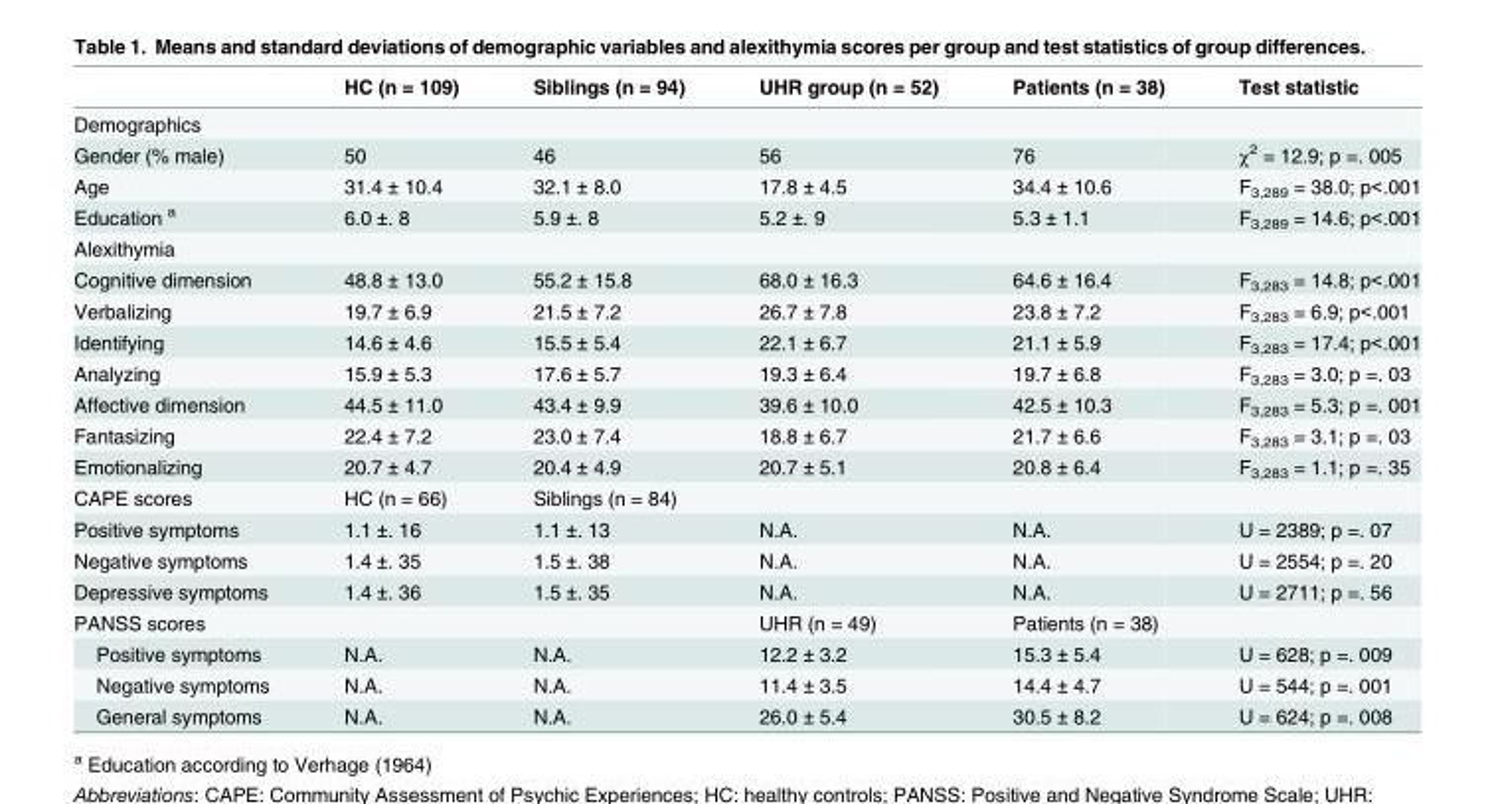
<table><thead><tr><td></td><td>HC (n = 109)</td><td>Siblings (n = 94)</td><td>UHR group (n = 52)</td><td>Patients (n = 38)</td><td>Test statistic</td></tr></thead><tbody><tr><td colspan="6">Demographics</td></tr><tr><td>Gender (% male)</td><td>50</td><td>46</td><td>56</td><td>76</td><td>χ<sup>2</sup> = 12.9; p =. 005</td></tr><tr><td>Age</td><td>31.4 ± 10.4</td><td>32.1 ± 8.0</td><td>17.8 ± 4.5</td><td>34.4 ± 10.6</td><td>F<sub>3,289</sub> = 38.0; p&lt;.001</td></tr><tr><td>Education <sup>a</sup></td><td>6.0 ±. 8</td><td>5.9 ±. 8</td><td>5.2 ±. 9</td><td>5.3 ± 1.1</td><td>F<sub>3,289</sub> = 14.6; p&lt;.001</td></tr><tr><td colspan="6">Alexithymia</td></tr><tr><td>Cognitive dimension</td><td>48.8 ± 13.0</td><td>55.2 ± 15.8</td><td>68.0 ± 16.3</td><td>64.6 ± 16.4</td><td>F<sub>3,283</sub> = 14.8; p&lt;.001</td></tr><tr><td>Verbalizing</td><td>19.7 ± 6.9</td><td>21.5 ± 7.2</td><td>26.7 ± 7.8</td><td>23.8 ± 7.2</td><td>F<sub>3,283</sub> = 6.9; p&lt;.001</td></tr><tr><td>Identifying</td><td>14.6 ± 4.6</td><td>15.5 ± 5.4</td><td>22.1 ± 6.7</td><td>21.1 ± 5.9</td><td>F<sub>3,283</sub> = 17.4; p&lt;.001</td></tr><tr><td>Analyzing</td><td>15.9 ± 5.3</td><td>17.6 ± 5.7</td><td>19.3 ± 6.4</td><td>19.7 ± 6.8</td><td>F<sub>3,283</sub> = 3.0; p =. 03</td></tr><tr><td>Affective dimension</td><td>44.5 ± 11.0</td><td>43.4 ± 9.9</td><td>39.6 ± 10.0</td><td>42.5 ± 10.3</td><td>F<sub>3,283</sub> = 5.3; p =. 001</td></tr><tr><td>Fantasizing</td><td>22.4 ± 7.2</td><td>23.0 ± 7.4</td><td>18.8 ± 6.7</td><td>21.7 ± 6.6</td><td>F<sub>3,283</sub> = 3.1; p =. 03</td></tr><tr><td>Emotionalizing</td><td>20.7 ± 4.7</td><td>20.4 ± 4.9</td><td>20.7 ± 5.1</td><td>20.8 ± 6.4</td><td>F<sub>3,283</sub> = 1.1; p =. 35</td></tr><tr><td>CAPE scores</td><td>HC (n = 66)</td><td>Siblings (n = 84)</td><td></td><td></td><td></td></tr><tr><td>Positive symptoms</td><td>1.1 ±. 16</td><td>1.1 ±. 13</td><td>N.A.</td><td>N.A.</td><td>U = 2389; p =. 07</td></tr><tr><td>Negative symptoms</td><td>1.4 ±. 35</td><td>1.5 ±. 38</td><td>N.A.</td><td>N.A.</td><td>U = 2554; p =. 20</td></tr><tr><td>Depressive symptoms</td><td>1.4 ±. 36</td><td>1.5 ±. 35</td><td>N.A.</td><td>N.A.</td><td>U = 2711; p =. 56</td></tr><tr><td>PANSS scores</td><td></td><td></td><td>UHR (n = 49)</td><td>Patients (n = 38)</td><td></td></tr><tr><td>Positive symptoms</td><td>N.A.</td><td>N.A.</td><td>12.2 ± 3.2</td><td>15.3 ± 5.4</td><td>U = 628; p =. 009</td></tr><tr><td>Negative symptoms</td><td>N.A.</td><td>N.A.</td><td>11.4 ± 3.5</td><td>14.4 ± 4.7</td><td>U = 544; p =. 001</td></tr><tr><td>General symptoms</td><td>N.A.</td><td>N.A.</td><td>26.0 ± 5.4</td><td>30.5 ± 8.2</td><td>U = 624; p =. 008</td></tr></tbody></table>